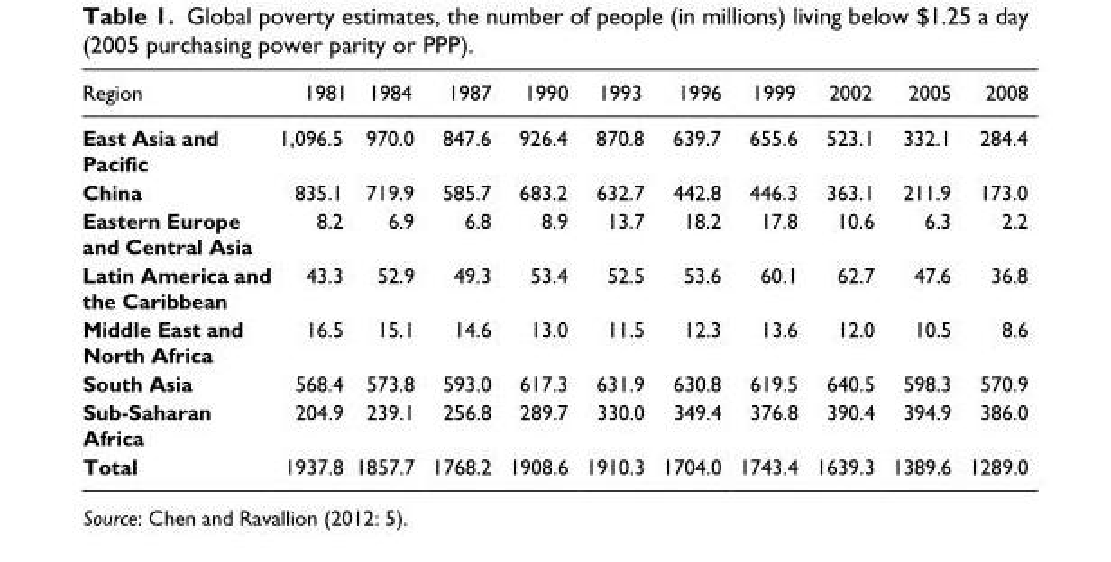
<table><thead><tr><td>Region</td><td>1981</td><td>1984</td><td>1987</td><td>1990</td><td>1993</td><td>1996</td><td>1999</td><td>2002</td><td>2005</td><td>2008</td></tr></thead><tbody><tr><td>East Asia and Pacific</td><td>1,096.5</td><td>970.0</td><td>847.6</td><td>926.4</td><td>870.8</td><td>639.7</td><td>655.6</td><td>523.1</td><td>332.1</td><td>284.4</td></tr><tr><td>China</td><td>835.1</td><td>719.9</td><td>585.7</td><td>683.2</td><td>632.7</td><td>442.8</td><td>446.3</td><td>363.1</td><td>211.9</td><td>173.0</td></tr><tr><td>Eastern Europe and Central Asia</td><td>8.2</td><td>6.9</td><td>6.8</td><td>8.9</td><td>13.7</td><td>18.2</td><td>17.8</td><td>10.6</td><td>6.3</td><td>2.2</td></tr><tr><td>Latin America and the Caribbean</td><td>43.3</td><td>52.9</td><td>49.3</td><td>53.4</td><td>52.5</td><td>53.6</td><td>60.1</td><td>62.7</td><td>47.6</td><td>36.8</td></tr><tr><td>Middle East and North Africa</td><td>16.5</td><td>15.1</td><td>14.6</td><td>13.0</td><td>11.5</td><td>12.3</td><td>13.6</td><td>12.0</td><td>10.5</td><td>8.6</td></tr><tr><td>South Asia</td><td>568.4</td><td>573.8</td><td>593.0</td><td>617.3</td><td>631.9</td><td>630.8</td><td>619.5</td><td>640.5</td><td>598.3</td><td>570.9</td></tr><tr><td>Sub-Saharan Africa</td><td>204.9</td><td>239.1</td><td>256.8</td><td>289.7</td><td>330.0</td><td>349.4</td><td>376.8</td><td>390.4</td><td>394.9</td><td>386.0</td></tr><tr><td>Total</td><td>1937.8</td><td>1857.7</td><td>1768.2</td><td>1908.6</td><td>1910.3</td><td>1704.0</td><td>1743.4</td><td>1639.3</td><td>1389.6</td><td>1289.0</td></tr></tbody></table>